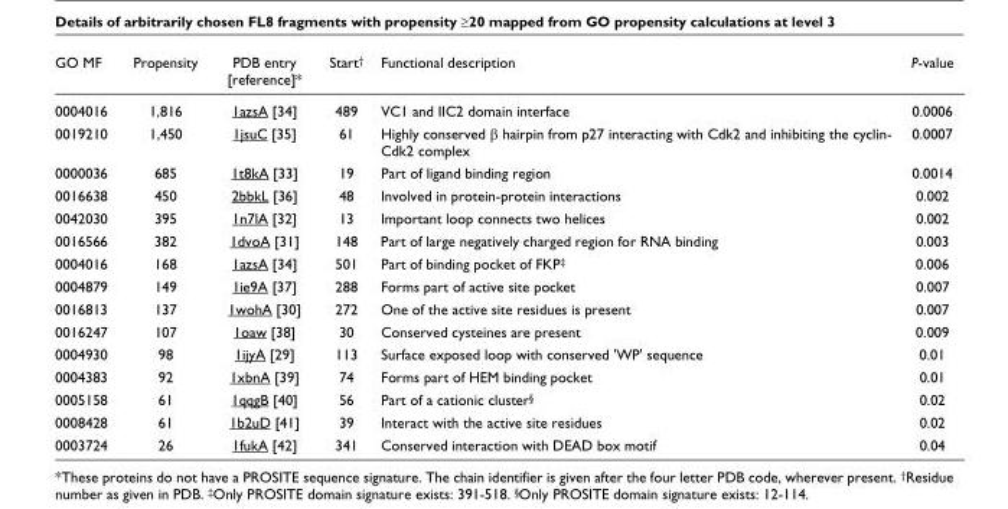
<table><thead><tr><td>GO MF</td><td>Propensity</td><td>PDB entry [reference]*</td><td>Start<sup>†</sup></td><td>Functional description</td><td>P-value</td></tr></thead><tbody><tr><td>0004016</td><td>1,816</td><td>1azsA [34]</td><td>489</td><td>VC1 and IIC2 domain interface</td><td>0.0006</td></tr><tr><td>0019210</td><td>1,450</td><td>1jsuC [35]</td><td>61</td><td>Highly conserved β hairpin from p27 interacting with Cdk2 and inhibiting the cyclin- Cdk2 complex</td><td>0.0007</td></tr><tr><td>0000036</td><td>685</td><td>1t8kA [33]</td><td>19</td><td>Part of ligand binding region</td><td>0.0014</td></tr><tr><td>0016638</td><td>450</td><td>2bbkL [36]</td><td>48</td><td>Involved in protein-protein interactions</td><td>0.002</td></tr><tr><td>0042030</td><td>395</td><td>1n7lA [32]</td><td>13</td><td>Important loop connects two helices</td><td>0.002</td></tr><tr><td>0016566</td><td>382</td><td>1dvoA [31]</td><td>148</td><td>Part of large negatively charged region for RNA binding</td><td>0.003</td></tr><tr><td>0004016</td><td>168</td><td>1azsA [34]</td><td>501</td><td>Part of binding pocket of FKP<sup>‡</sup></td><td>0.006</td></tr><tr><td>0004879</td><td>149</td><td>1ie9A [37]</td><td>288</td><td>Forms part of active site pocket</td><td>0.007</td></tr><tr><td>0016813</td><td>137</td><td>1wohA [30]</td><td>272</td><td>One of the active site residues is present</td><td>0.007</td></tr><tr><td>0016247</td><td>107</td><td>1oaw [38]</td><td>30</td><td>Conserved cysteines are present</td><td>0.009</td></tr><tr><td>0004930</td><td>98</td><td>1ijyA [29]</td><td>113</td><td>Surface exposed loop with conserved &#x27;WP&#x27; sequence</td><td>0.01</td></tr><tr><td>0004383</td><td>92</td><td>1xbnA [39]</td><td>74</td><td>Forms part of HEM binding pocket</td><td>0.01</td></tr><tr><td>0005158</td><td>61</td><td>1qqgB [40]</td><td>56</td><td>Part of a cationic cluster<sup>§</sup></td><td>0.02</td></tr><tr><td>0008428</td><td>61</td><td>1b2uD [41]</td><td>39</td><td>Interact with the active site residues</td><td>0.02</td></tr><tr><td>0003724</td><td>26</td><td>1fukA [42]</td><td>341</td><td>Conserved interaction with DEAD box motif</td><td>0.04</td></tr></tbody></table>